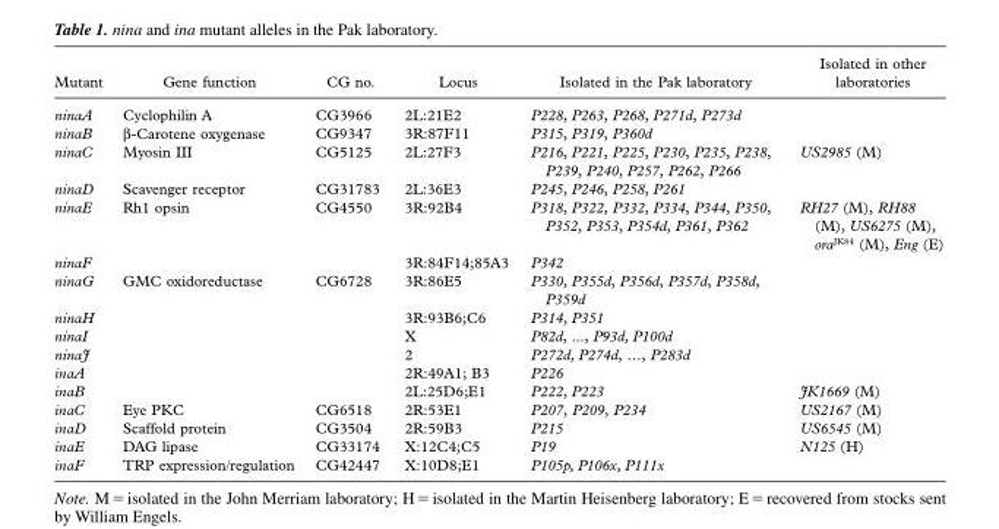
<table><thead><tr><td>Mutant</td><td>Gene function</td><td>CG no.</td><td>Locus</td><td>Isolated in the Pak laboratory</td><td>Isolated in other laboratories</td></tr></thead><tbody><tr><td>ninaA</td><td>Cyclophilin A</td><td>CG3966</td><td>2L:21E2</td><td>P228, P263, P268, P271d, P273d</td><td></td></tr><tr><td>ninaB</td><td>β-Carotene oxygenase</td><td>CG9347</td><td>3R:87F11</td><td>P315, P319, P360d</td><td></td></tr><tr><td>ninaC</td><td>Myosin III</td><td>CG5125</td><td>2L:27F3</td><td>P216, P221, P225, P230, P235, P238, P239, P240, P257, P262, P266</td><td>US2985 (M)</td></tr><tr><td>ninaD</td><td>Scavenger receptor</td><td>CG31783</td><td>2L:36E3</td><td>P245, P246, P258, P261</td><td></td></tr><tr><td>ninaE</td><td>Rh1 opsin</td><td>CG4550</td><td>3R:92B4</td><td>P318, P322, P332, P334, P344, P350, P352, P353, P354d, P361, P362</td><td>RH27 (M), RH88 (M), US6275 (M), oraJK84 (M), Eng (E)</td></tr><tr><td>ninaF</td><td></td><td></td><td>3R:84F14;85A3</td><td>P342</td><td></td></tr><tr><td>ninaG</td><td>GMC oxidoreductase</td><td>CG6728</td><td>3R:86E5</td><td>P330, P355d, P356d, P357d, P358d, P359d</td><td></td></tr><tr><td>ninaH</td><td></td><td></td><td>3R:93B6;C6</td><td>P314, P351</td><td></td></tr><tr><td>ninaI</td><td></td><td></td><td>X</td><td>P82d, ..., P93d, P100d</td><td></td></tr><tr><td>ninaJ</td><td></td><td></td><td>2</td><td>P272d, P274d, …, P283d</td><td></td></tr><tr><td>inaA</td><td></td><td></td><td>2R:49A1; B3</td><td>P226</td><td></td></tr><tr><td>inaB</td><td></td><td></td><td>2L:25D6;E1</td><td>P222, P223</td><td>JK1669 (M)</td></tr><tr><td>inaC</td><td>Eye PKC</td><td>CG6518</td><td>2R:53E1</td><td>P207, P209, P234</td><td>US2167 (M)</td></tr><tr><td>inaD</td><td>Scaffold protein</td><td>CG3504</td><td>2R:59B3</td><td>P215</td><td>US6545 (M)</td></tr><tr><td>inaE</td><td>DAG lipase</td><td>CG33174</td><td>X:12C4;C5</td><td>P19</td><td>N125 (H)</td></tr><tr><td>inaF</td><td>TRP expression/regulation</td><td>CG42447</td><td>X:10D8;E1</td><td>P105p, P106x, P111x</td><td></td></tr></tbody></table>